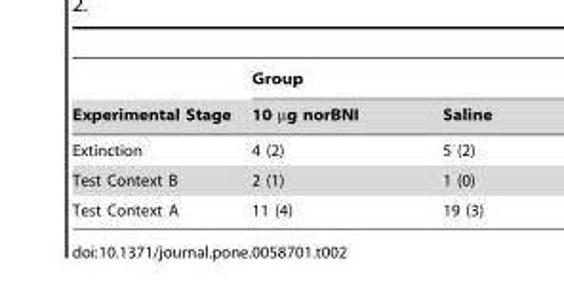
<table><thead><tr><td rowspan="2">Experimental Stage</td><td colspan="2">Group</td></tr><tr><td>10 µg norBNI</td><td>Saline</td></tr></thead><tbody><tr><td>Extinction</td><td>4 (2)</td><td>5 (2)</td></tr><tr><td>Test Context B</td><td>2 (1)</td><td>1 (0)</td></tr><tr><td>Test Context A</td><td>11 (4)</td><td>19 (3)</td></tr></tbody></table>